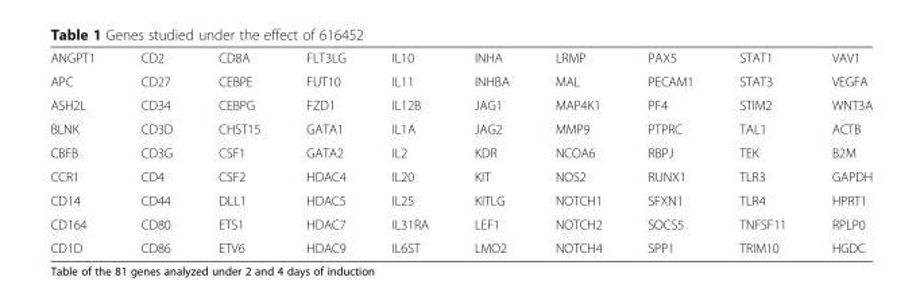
<table><tbody><tr><td>ANGPT1</td><td>CD2</td><td>CD8A</td><td>FLT3LG</td><td>IL10</td><td>INHA</td><td>LRMP</td><td>PAX5</td><td>STAT1</td><td>VAV1</td></tr><tr><td>APC</td><td>CD27</td><td>CEBPE</td><td>FUT10</td><td>IL11</td><td>INHBA</td><td>MAL</td><td>PECAM1</td><td>STAT3</td><td>VEGFA</td></tr><tr><td>ASH2L</td><td>CD34</td><td>CEBPG</td><td>FZD1</td><td>IL12B</td><td>JAG1</td><td>MAP4K1</td><td>PF4</td><td>STIM2</td><td>WNT3A</td></tr><tr><td>BLNK</td><td>CD3D</td><td>CHST15</td><td>GATA1</td><td>IL1A</td><td>JAG2</td><td>MMP9</td><td>PTPRC</td><td>TAL1</td><td>ACTB</td></tr><tr><td>CBFB</td><td>CD3G</td><td>CSF1</td><td>GATA2</td><td>IL2</td><td>KDR</td><td>NCOA6</td><td>RBPJ</td><td>TEK</td><td>B2M</td></tr><tr><td>CCR1</td><td>CD4</td><td>CSF2</td><td>HDAC4</td><td>IL20</td><td>KIT</td><td>NOS2</td><td>RUNX1</td><td>TLR3</td><td>GAPDH</td></tr><tr><td>CD14</td><td>CD44</td><td>DLL1</td><td>HDAC5</td><td>IL25</td><td>KITLG</td><td>NOTCH1</td><td>SFXN1</td><td>TLR4</td><td>HPRT1</td></tr><tr><td>CD164</td><td>CD80</td><td>ETS1</td><td>HDAC7</td><td>IL31RA</td><td>LEF1</td><td>NOTCH2</td><td>SOCS5</td><td>TNFSF11</td><td>RPLP0</td></tr><tr><td>CD1D</td><td>CD86</td><td>ETV6</td><td>HDAC9</td><td>IL6ST</td><td>LMO2</td><td>NOTCH4</td><td>SPP1</td><td>TRIM10</td><td>HGDC</td></tr></tbody></table>